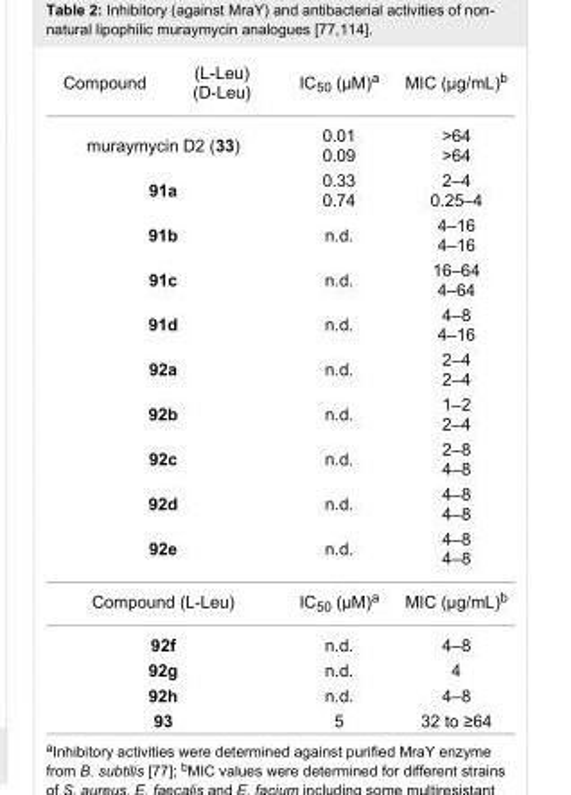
<table><tbody><tr><td>Compound</td><td>(L-Leu) (D-Leu)</td><td>IC<sub>50</sub> (μM)<sup>a</sup></td><td>MIC (μg/mL)<sup>b</sup></td></tr><tr><td colspan="2">muraymycin D2 (33)</td><td>0.01 0.09</td><td>&gt;64 &gt;64</td></tr><tr><td colspan="2">91a</td><td>0.33 0.74</td><td>2–4 0.25–4</td></tr><tr><td colspan="2">91b</td><td>n.d.</td><td>4–16 4–16</td></tr><tr><td colspan="2">91c</td><td>n.d.</td><td>16–64 4–64</td></tr><tr><td colspan="2">91d</td><td>n.d.</td><td>4–8 4–16</td></tr><tr><td colspan="2">92a</td><td>n.d.</td><td>2–4 2–4</td></tr><tr><td colspan="2">92b</td><td>n.d.</td><td>1–2 2–4</td></tr><tr><td colspan="2">92c</td><td>n.d.</td><td>2–8 4–8</td></tr><tr><td colspan="2">92d</td><td>n.d.</td><td>4–8 4–8</td></tr><tr><td colspan="2">92e</td><td>n.d.</td><td>4–8 4–8</td></tr><tr><td colspan="2">Compound (L-Leu)</td><td>IC<sub>50</sub> (μM)<sup>a</sup></td><td>MIC (μg/mL)<sup>b</sup></td></tr><tr><td colspan="2">92f</td><td>n.d.</td><td>4–8</td></tr><tr><td colspan="2">92g</td><td>n.d.</td><td>4</td></tr><tr><td colspan="2">92h</td><td>n.d.</td><td>4–8</td></tr><tr><td colspan="2">93</td><td>5</td><td>32 to ≥64</td></tr></tbody></table>